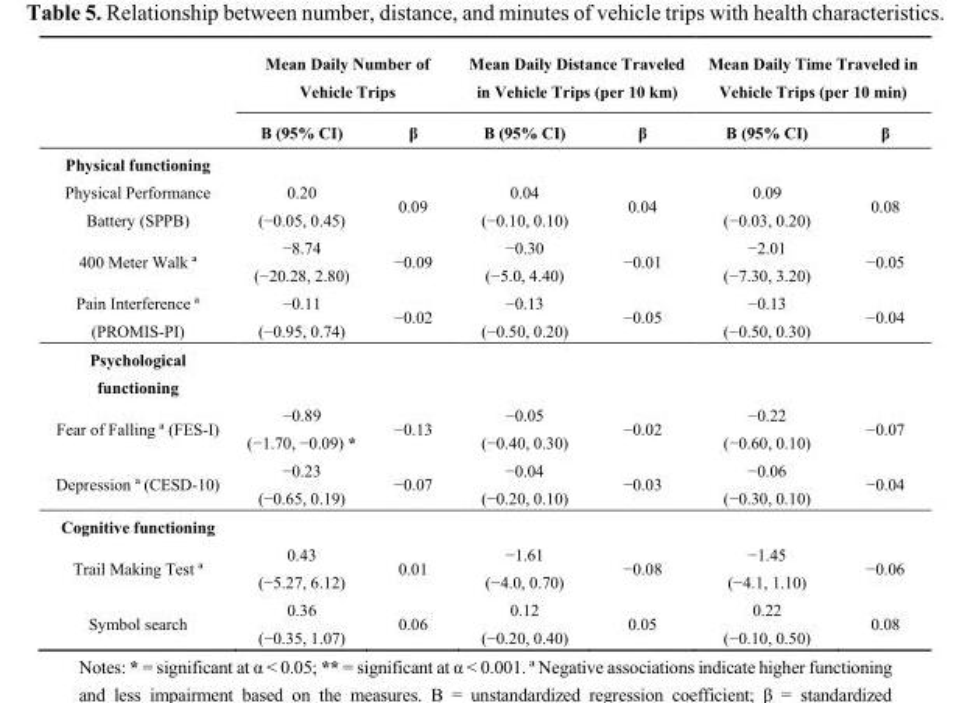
<table><thead><tr><td rowspan="2"></td><td colspan="2">Mean Daily Number of Vehicle Trips</td><td colspan="2">Mean Daily Distance Traveled in Vehicle Trips (per 10 km)</td><td colspan="2">Mean Daily Time Traveled in Vehicle Trips (per 10 min)</td></tr><tr><td>B (95% CI)</td><td>β</td><td>B (95% CI)</td><td>β</td><td>B (95% CI)</td><td>β</td></tr></thead><tbody><tr><td colspan="7">Physical functioning</td></tr><tr><td>Physical Performance Battery (SPPB)</td><td>0.20 (−0.05, 0.45)</td><td>0.09</td><td>0.04 (−0.10, 0.10)</td><td>0.04</td><td>0.09 (−0.03, 0.20)</td><td>0.08</td></tr><tr><td>400 Meter Walk ª</td><td>−8.74 (−20.28, 2.80)</td><td>−0.09</td><td>−0.30 (−5.0, 4.40)</td><td>−0.01</td><td>−2.01 (−7.30, 3.20)</td><td>−0.05</td></tr><tr><td>Pain Interference ª (PROMIS-PI)</td><td>−0.11 (−0.95, 0.74)</td><td>−0.02</td><td>−0.13 (−0.50, 0.20)</td><td>−0.05</td><td>−0.13 (−0.50, 0.30)</td><td>−0.04</td></tr><tr><td colspan="7">Psychological functioning</td></tr><tr><td>Fear of Falling ª (FES-I)</td><td>−0.89 (−1.70, −0.09) *</td><td>−0.13</td><td>−0.05 (−0.40, 0.30)</td><td>−0.02</td><td>−0.22 (−0.60, 0.10)</td><td>−0.07</td></tr><tr><td>Depression ª (CESD-10)</td><td>−0.23 (−0.65, 0.19)</td><td>−0.07</td><td>−0.04 (−0.20, 0.10)</td><td>−0.03</td><td>−0.06 (−0.30, 0.10)</td><td>−0.04</td></tr><tr><td colspan="7">Cognitive functioning</td></tr><tr><td>Trail Making Test ª</td><td>0.43 (−5.27, 6.12)</td><td>0.01</td><td>−1.61 (−4.0, 0.70)</td><td>−0.08</td><td>−1.45 (−4.1, 1.10)</td><td>−0.06</td></tr><tr><td>Symbol search</td><td>0.36 (−0.35, 1.07)</td><td>0.06</td><td>0.12 (−0.20, 0.40)</td><td>0.05</td><td>0.22 (−0.10, 0.50)</td><td>0.08</td></tr></tbody></table>